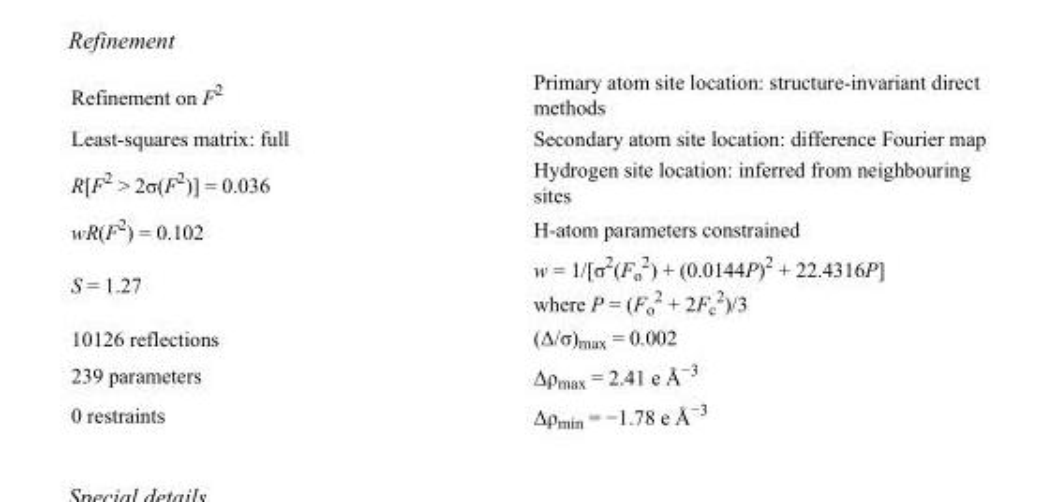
<table><tbody><tr><td>Refinement on F<sup>2</sup></td><td>Primary atom site location: structure-invariant direct methods</td></tr><tr><td>Least-squares matrix: full</td><td>Secondary atom site location: difference Fourier map</td></tr><tr><td>R[F<sup>2</sup> &gt; 2σ(F<sup>2</sup>)] = 0.036</td><td>Hydrogen site location: inferred from neighbouring sites</td></tr><tr><td>wR(F<sup>2</sup>) = 0.102</td><td>H-atom parameters constrained</td></tr><tr><td>S = 1.27</td><td>w = 1/[σ<sup>2</sup>(F<sub>o</sub> <sup>2</sup>) + (0.0144P)<sup>2</sup> + 22.4316P] where P = (F<sub>o</sub> <sup>2</sup> + 2F<sub>c</sub> <sup>2</sup>)/3</td></tr><tr><td>10126 reflections</td><td>(Δ/σ)<sub>max</sub> = 0.002</td></tr><tr><td>239 parameters</td><td>Δρ<sub>max</sub> = 2.41 e Å<sup>−3</sup></td></tr><tr><td>0 restraints</td><td>Δρ<sub>min</sub> = −1.78 e Å<sup>−3</sup></td></tr></tbody></table>